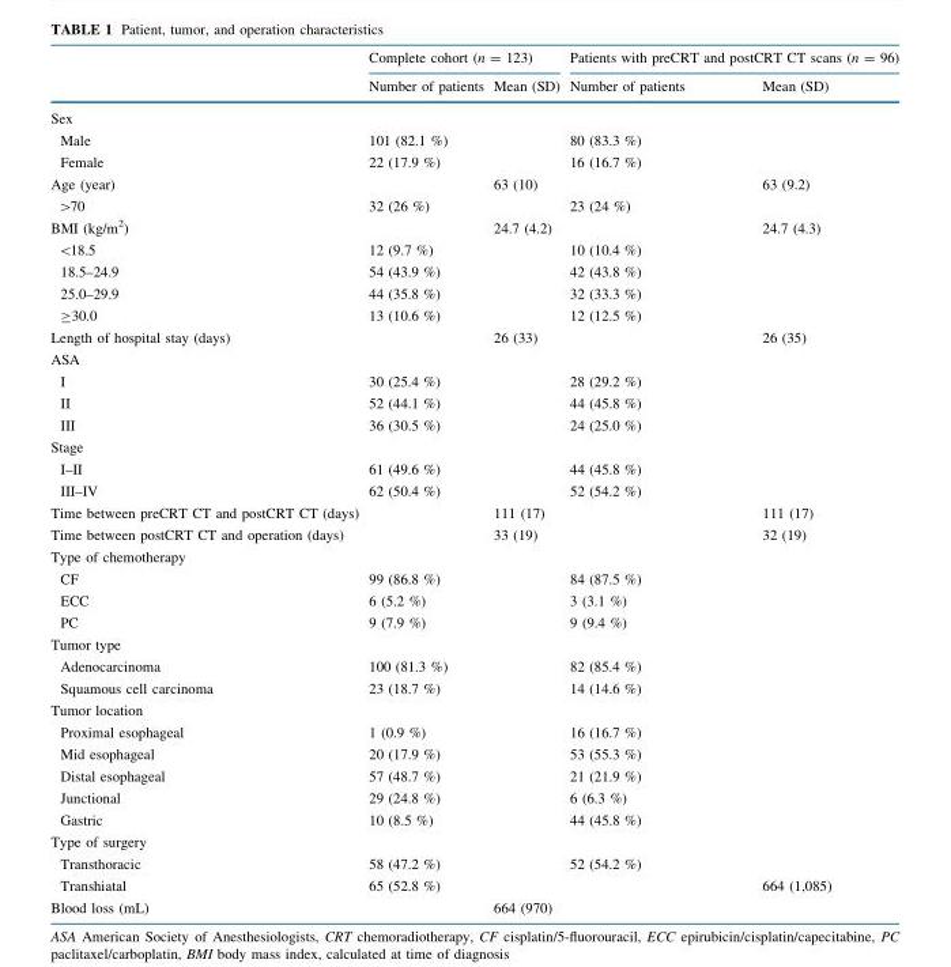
<table><thead><tr><td rowspan="2"></td><td colspan="2">Complete cohort (n = 123)</td><td colspan="2">Patients with preCRT and postCRT CT scans (n = 96)</td></tr><tr><td>Number of patients</td><td>Mean (SD)</td><td>Number of patients</td><td>Mean (SD)</td></tr></thead><tbody><tr><td colspan="5">Sex</td></tr><tr><td>Male</td><td>101 (82.1 %)</td><td></td><td>80 (83.3 %)</td><td></td></tr><tr><td>Female</td><td>22 (17.9 %)</td><td></td><td>16 (16.7 %)</td><td></td></tr><tr><td>Age (year)</td><td></td><td>63 (10)</td><td></td><td>63 (9.2)</td></tr><tr><td>&gt;70</td><td>32 (26 %)</td><td></td><td>23 (24 %)</td><td></td></tr><tr><td>BMI (kg/m<sup>2</sup>)</td><td></td><td>24.7 (4.2)</td><td></td><td>24.7 (4.3)</td></tr><tr><td>&lt;18.5</td><td>12 (9.7 %)</td><td></td><td>10 (10.4 %)</td><td></td></tr><tr><td>18.5–24.9</td><td>54 (43.9 %)</td><td></td><td>42 (43.8 %)</td><td></td></tr><tr><td>25.0–29.9</td><td>44 (35.8 %)</td><td></td><td>32 (33.3 %)</td><td></td></tr><tr><td>≥30.0</td><td>13 (10.6 %)</td><td></td><td>12 (12.5 %)</td><td></td></tr><tr><td>Length of hospital stay (days)</td><td></td><td>26 (33)</td><td></td><td>26 (35)</td></tr><tr><td colspan="5">ASA</td></tr><tr><td>I</td><td>30 (25.4 %)</td><td></td><td>28 (29.2 %)</td><td></td></tr><tr><td>II</td><td>52 (44.1 %)</td><td></td><td>44 (45.8 %)</td><td></td></tr><tr><td>III</td><td>36 (30.5 %)</td><td></td><td>24 (25.0 %)</td><td></td></tr><tr><td colspan="5">Stage</td></tr><tr><td>I–II</td><td>61 (49.6 %)</td><td></td><td>44 (45.8 %)</td><td></td></tr><tr><td>III–IV</td><td>62 (50.4 %)</td><td></td><td>52 (54.2 %)</td><td></td></tr><tr><td>Time between preCRT CT and postCRT CT (days)</td><td></td><td>111 (17)</td><td></td><td>111 (17)</td></tr><tr><td>Time between postCRT CT and operation (days)</td><td></td><td>33 (19)</td><td></td><td>32 (19)</td></tr><tr><td colspan="5">Type of chemotherapy</td></tr><tr><td>CF</td><td>99 (86.8 %)</td><td></td><td>84 (87.5 %)</td><td></td></tr><tr><td>ECC</td><td>6 (5.2 %)</td><td></td><td>3 (3.1 %)</td><td></td></tr><tr><td>PC</td><td>9 (7.9 %)</td><td></td><td>9 (9.4 %)</td><td></td></tr><tr><td colspan="5">Tumor type</td></tr><tr><td>Adenocarcinoma</td><td>100 (81.3 %)</td><td></td><td>82 (85.4 %)</td><td></td></tr><tr><td>Squamous cell carcinoma</td><td>23 (18.7 %)</td><td></td><td>14 (14.6 %)</td><td></td></tr><tr><td colspan="5">Tumor location</td></tr><tr><td>Proximal esophageal</td><td>1 (0.9 %)</td><td></td><td>16 (16.7 %)</td><td></td></tr><tr><td>Mid esophageal</td><td>20 (17.9 %)</td><td></td><td>53 (55.3 %)</td><td></td></tr><tr><td>Distal esophageal</td><td>57 (48.7 %)</td><td></td><td>21 (21.9 %)</td><td></td></tr><tr><td>Junctional</td><td>29 (24.8 %)</td><td></td><td>6 (6.3 %)</td><td></td></tr><tr><td>Gastric</td><td>10 (8.5 %)</td><td></td><td>44 (45.8 %)</td><td></td></tr><tr><td colspan="5">Type of surgery</td></tr><tr><td>Transthoracic</td><td>58 (47.2 %)</td><td></td><td>52 (54.2 %)</td><td></td></tr><tr><td>Transhiatal</td><td>65 (52.8 %)</td><td></td><td></td><td>664 (1,085)</td></tr><tr><td>Blood loss (mL)</td><td></td><td>664 (970)</td><td></td><td></td></tr></tbody></table>